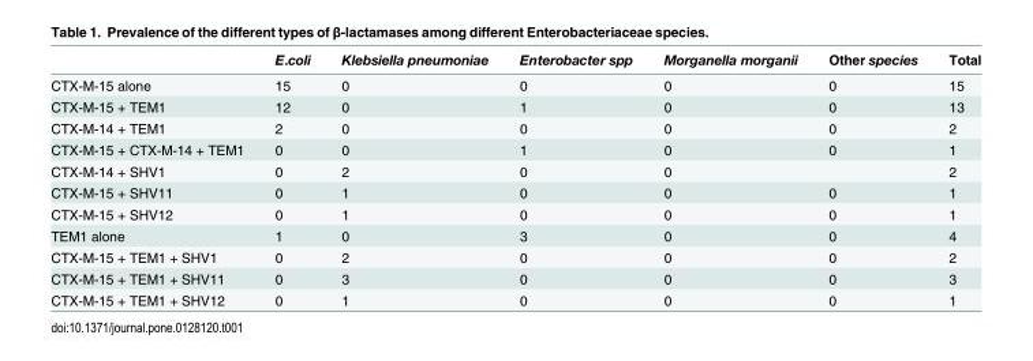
<table><thead><tr><td></td><td>E.coli</td><td>Klebsiella pneumoniae</td><td>Enterobacter spp</td><td>Morganella morganii</td><td>Other species</td><td>Total</td></tr></thead><tbody><tr><td>CTX-M-15 alone</td><td>15</td><td>0</td><td>0</td><td>0</td><td>0</td><td>15</td></tr><tr><td>CTX-M-15 + TEM1</td><td>12</td><td>0</td><td>1</td><td>0</td><td>0</td><td>13</td></tr><tr><td>CTX-M-14 + TEM1</td><td>2</td><td>0</td><td>0</td><td>0</td><td>0</td><td>2</td></tr><tr><td>CTX-M-15 + CTX-M-14 + TEM1</td><td>0</td><td>0</td><td>1</td><td>0</td><td>0</td><td>1</td></tr><tr><td>CTX-M-14 + SHV1</td><td>0</td><td>2</td><td>0</td><td>0</td><td></td><td>2</td></tr><tr><td>CTX-M-15 + SHV11</td><td>0</td><td>1</td><td>0</td><td>0</td><td>0</td><td>1</td></tr><tr><td>CTX-M-15 + SHV12</td><td>0</td><td>1</td><td>0</td><td>0</td><td>0</td><td>1</td></tr><tr><td>TEM1 alone</td><td>1</td><td>0</td><td>3</td><td>0</td><td>0</td><td>4</td></tr><tr><td>CTX-M-15 + TEM1 + SHV1</td><td>0</td><td>2</td><td>0</td><td>0</td><td>0</td><td>2</td></tr><tr><td>CTX-M-15 + TEM1 + SHV11</td><td>0</td><td>3</td><td>0</td><td>0</td><td>0</td><td>3</td></tr><tr><td>CTX-M-15 + TEM1 + SHV12</td><td>0</td><td>1</td><td>0</td><td>0</td><td>0</td><td>1</td></tr></tbody></table>